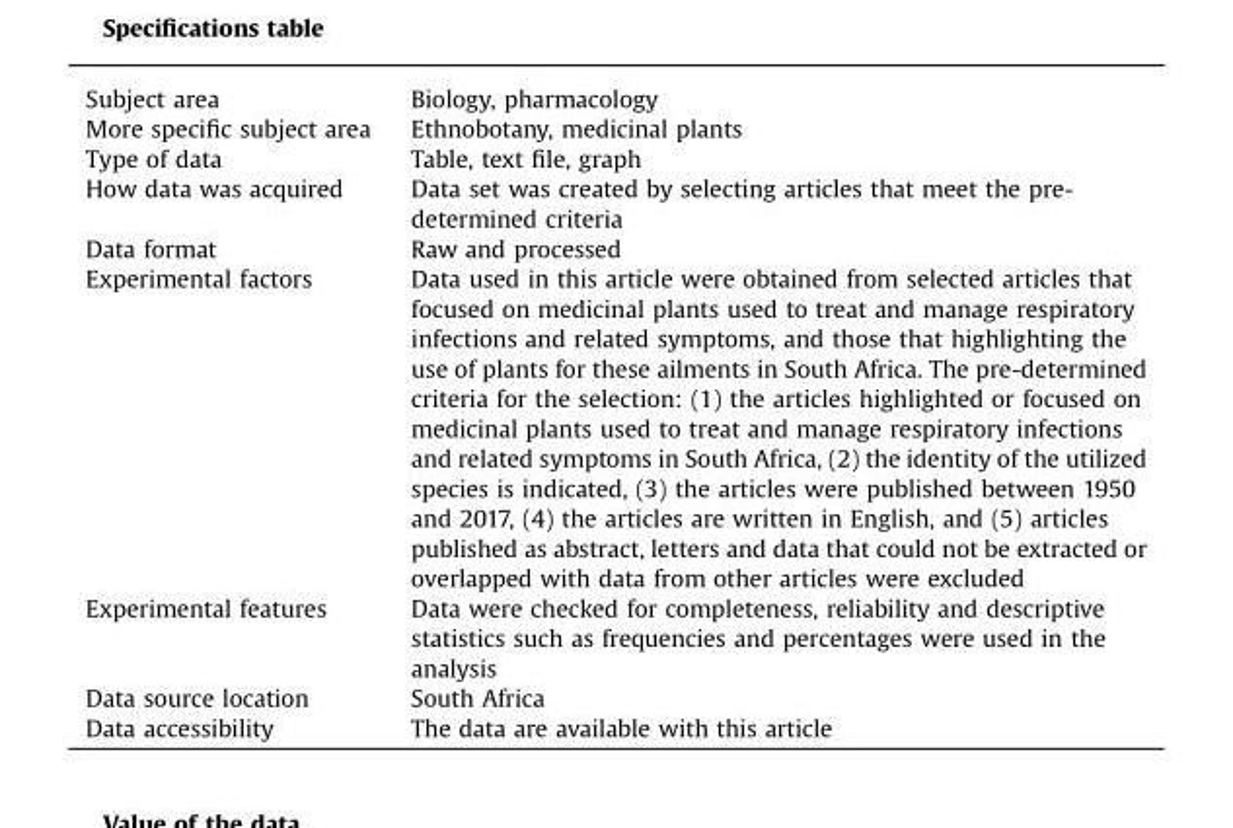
<table><tbody><tr><td>Subject area</td><td>Biology, pharmacology</td></tr><tr><td>More specific subject area</td><td>Ethnobotany, medicinal plants</td></tr><tr><td>Type of data</td><td>Table, text file, graph</td></tr><tr><td>How data was acquired</td><td>Data set was created by selecting articles that meet the pre- determined criteria</td></tr><tr><td>Data format</td><td>Raw and processed</td></tr><tr><td>Experimental factors</td><td>Data used in this article were obtained from selected articles that focused on medicinal plants used to treat and manage respiratory infections and related symptoms, and those that highlighting the use of plants for these ailments in South Africa. The pre-determined criteria for the selection: (1) the articles highlighted or focused on medicinal plants used to treat and manage respiratory infections and related symptoms in South Africa, (2) the identity of the utilized species is indicated, (3) the articles were published between 1950 and 2017, (4) the articles are written in English, and (5) articles published as abstract, letters and data that could not be extracted or overlapped with data from other articles were excluded</td></tr><tr><td>Experimental features</td><td>Data were checked for completeness, reliability and descriptive statistics such as frequencies and percentages were used in the analysis</td></tr><tr><td>Data source location</td><td>South Africa</td></tr><tr><td>Data accessibility</td><td>The data are available with this article</td></tr></tbody></table>